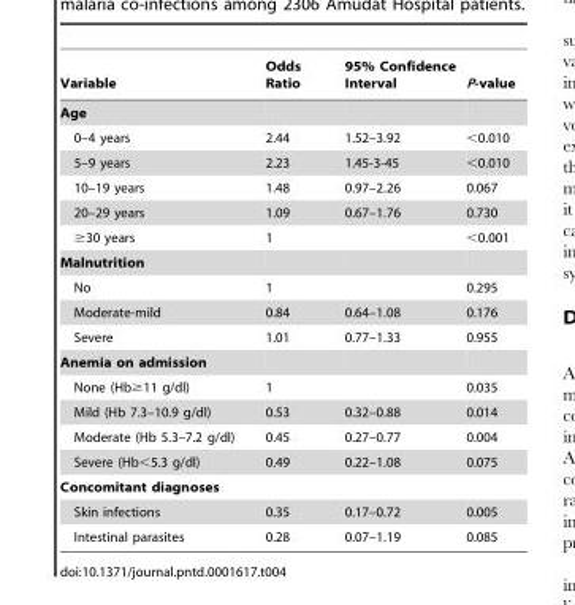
<table><thead><tr><td>Variable</td><td>Odds Ratio</td><td>95% Confidence Interval</td><td>P-value</td></tr></thead><tbody><tr><td colspan="4">Age</td></tr><tr><td>0–4 years</td><td>2.44</td><td>1.52–3.92</td><td>&lt;0.010</td></tr><tr><td>5–9 years</td><td>2.23</td><td>1.45-3-45</td><td>&lt;0.010</td></tr><tr><td>10–19 years</td><td>1.48</td><td>0.97–2.26</td><td>0.067</td></tr><tr><td>20–29 years</td><td>1.09</td><td>0.67–1.76</td><td>0.730</td></tr><tr><td>≥30 years</td><td>1</td><td></td><td>&lt;0.001</td></tr><tr><td colspan="4">Malnutrition</td></tr><tr><td>No</td><td>1</td><td></td><td>0.295</td></tr><tr><td>Moderate-mild</td><td>0.84</td><td>0.64–1.08</td><td>0.176</td></tr><tr><td>Severe</td><td>1.01</td><td>0.77–1.33</td><td>0.955</td></tr><tr><td colspan="4">Anemia on admission</td></tr><tr><td>None (Hb≥11 g/dl)</td><td>1</td><td></td><td>0.035</td></tr><tr><td>Mild (Hb 7.3–10.9 g/dl)</td><td>0.53</td><td>0.32–0.88</td><td>0.014</td></tr><tr><td>Moderate (Hb 5.3–7.2 g/dl)</td><td>0.45</td><td>0.27–0.77</td><td>0.004</td></tr><tr><td>Severe (Hb&lt;5.3 g/dl)</td><td>0.49</td><td>0.22–1.08</td><td>0.075</td></tr><tr><td colspan="4">Concomitant diagnoses</td></tr><tr><td>Skin infections</td><td>0.35</td><td>0.17–0.72</td><td>0.005</td></tr><tr><td>Intestinal parasites</td><td>0.28</td><td>0.07–1.19</td><td>0.085</td></tr></tbody></table>